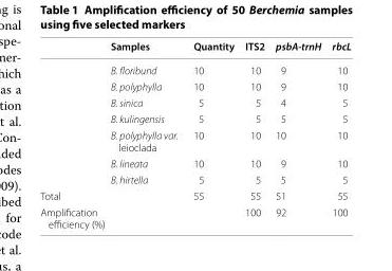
<table><thead><tr><td></td><td>Samples</td><td>Quantity</td><td>ITS2</td><td>psbA-trnH</td><td>rbcL</td></tr></thead><tbody><tr><td></td><td>B. floribund</td><td>10</td><td>10</td><td>9</td><td>10</td></tr><tr><td></td><td>B. polyphylla</td><td>10</td><td>10</td><td>9</td><td>10</td></tr><tr><td></td><td>B. sinica</td><td>5</td><td>5</td><td>4</td><td>5</td></tr><tr><td></td><td>B. kulingensis</td><td>5</td><td>5</td><td>5</td><td>5</td></tr><tr><td></td><td>B. polyphylla var. leioclada</td><td>10</td><td>10</td><td>10</td><td>10</td></tr><tr><td></td><td>B. lineata</td><td>10</td><td>10</td><td>9</td><td>10</td></tr><tr><td></td><td>B. hirtella</td><td>5</td><td>5</td><td>5</td><td>5</td></tr><tr><td>Total</td><td></td><td>55</td><td>55</td><td>51</td><td>55</td></tr><tr><td>Amplification efficiency (%)</td><td></td><td></td><td>100</td><td>92</td><td>100</td></tr></tbody></table>